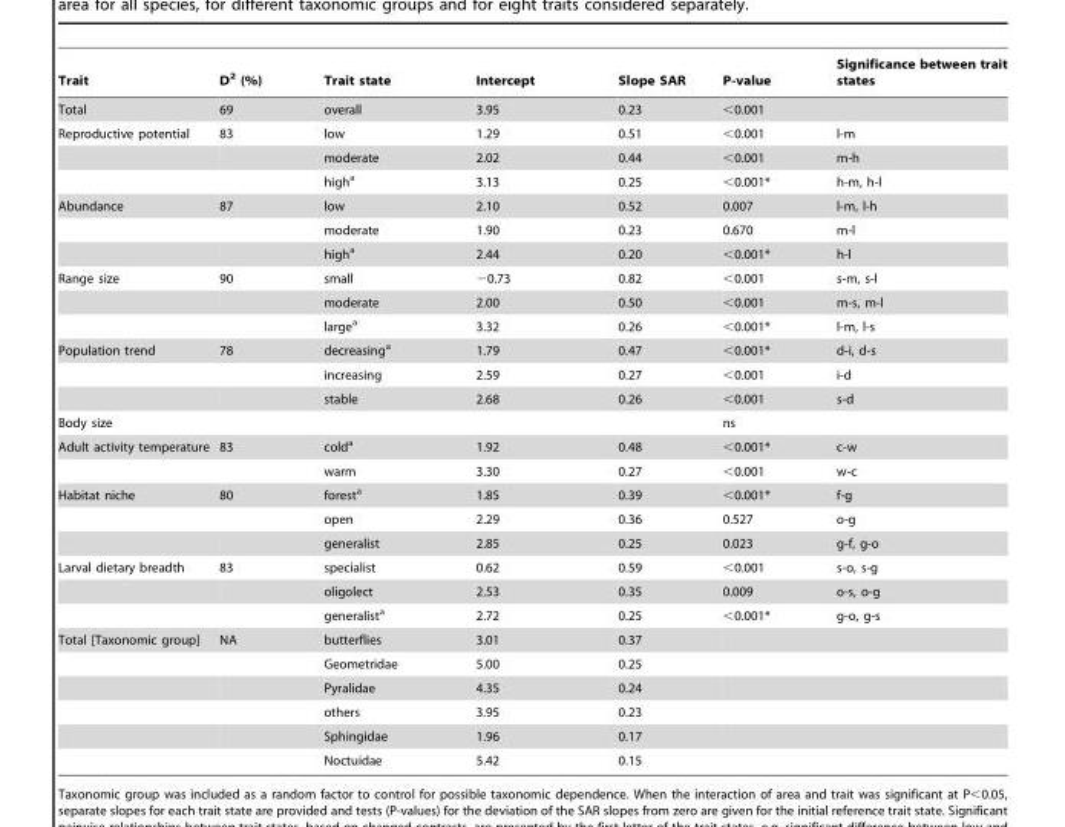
<table><thead><tr><td>Trait</td><td>D<sup>2</sup> (%)</td><td>Trait state</td><td>Intercept</td><td>Slope SAR</td><td>P-value</td><td>Significance between trait states</td></tr></thead><tbody><tr><td>Total</td><td>69</td><td>overall</td><td>3.95</td><td>0.23</td><td>&lt;0.001</td><td></td></tr><tr><td rowspan="3">Reproductive potential</td><td>83</td><td>low</td><td>1.29</td><td>0.51</td><td>&lt;0.001</td><td>l-m</td></tr><tr><td></td><td>moderate</td><td>2.02</td><td>0.44</td><td>&lt;0.001</td><td>m-h</td></tr><tr><td></td><td>high<sup>a</sup></td><td>3.13</td><td>0.25</td><td>&lt;0.001*</td><td>h-m, h-l</td></tr><tr><td rowspan="3">Abundance</td><td>87</td><td>low</td><td>2.10</td><td>0.52</td><td>0.007</td><td>l-m, l-h</td></tr><tr><td></td><td>moderate</td><td>1.90</td><td>0.23</td><td>0.670</td><td>m-l</td></tr><tr><td></td><td>high<sup>a</sup></td><td>2.44</td><td>0.20</td><td>&lt;0.001*</td><td>h-l</td></tr><tr><td rowspan="3">Range size</td><td>90</td><td>small</td><td>−0.73</td><td>0.82</td><td>&lt;0.001</td><td>s-m, s-l</td></tr><tr><td></td><td>moderate</td><td>2.00</td><td>0.50</td><td>&lt;0.001</td><td>m-s, m-l</td></tr><tr><td></td><td>large<sup>a</sup></td><td>3.32</td><td>0.26</td><td>&lt;0.001*</td><td>l-m, l-s</td></tr><tr><td rowspan="3">Population trend</td><td>78</td><td>decreasing<sup>a</sup></td><td>1.79</td><td>0.47</td><td>&lt;0.001*</td><td>d-i, d-s</td></tr><tr><td></td><td>increasing</td><td>2.59</td><td>0.27</td><td>&lt;0.001</td><td>i-d</td></tr><tr><td></td><td>stable</td><td>2.68</td><td>0.26</td><td>&lt;0.001</td><td>s-d</td></tr><tr><td>Body size</td><td></td><td></td><td></td><td></td><td>ns</td><td></td></tr><tr><td rowspan="2">Adult activity temperature</td><td>83</td><td>cold<sup>a</sup></td><td>1.92</td><td>0.48</td><td>&lt;0.001*</td><td>c-w</td></tr><tr><td></td><td>warm</td><td>3.30</td><td>0.27</td><td>&lt;0.001</td><td>w-c</td></tr><tr><td rowspan="3">Habitat niche</td><td>80</td><td>forest<sup>a</sup></td><td>1.85</td><td>0.39</td><td>&lt;0.001*</td><td>f-g</td></tr><tr><td></td><td>open</td><td>2.29</td><td>0.36</td><td>0.527</td><td>o-g</td></tr><tr><td></td><td>generalist</td><td>2.85</td><td>0.25</td><td>0.023</td><td>g-f, g-o</td></tr><tr><td rowspan="3">Larval dietary breadth</td><td>83</td><td>specialist</td><td>0.62</td><td>0.59</td><td>&lt;0.001</td><td>s-o, s-g</td></tr><tr><td></td><td>oligolect</td><td>2.53</td><td>0.35</td><td>0.009</td><td>o-s, o-g</td></tr><tr><td></td><td>generalist<sup>a</sup></td><td>2.72</td><td>0.25</td><td>&lt;0.001*</td><td>g-o, g-s</td></tr><tr><td rowspan="6">Total [Taxonomic group]</td><td>NA</td><td>butterflies</td><td>3.01</td><td>0.37</td><td></td><td></td></tr><tr><td></td><td>Geometridae</td><td>5.00</td><td>0.25</td><td></td><td></td></tr><tr><td></td><td>Pyralidae</td><td>4.35</td><td>0.24</td><td></td><td></td></tr><tr><td></td><td>others</td><td>3.95</td><td>0.23</td><td></td><td></td></tr><tr><td></td><td>Sphingidae</td><td>1.96</td><td>0.17</td><td></td><td></td></tr><tr><td></td><td>Noctuidae</td><td>5.42</td><td>0.15</td><td></td><td></td></tr></tbody></table>